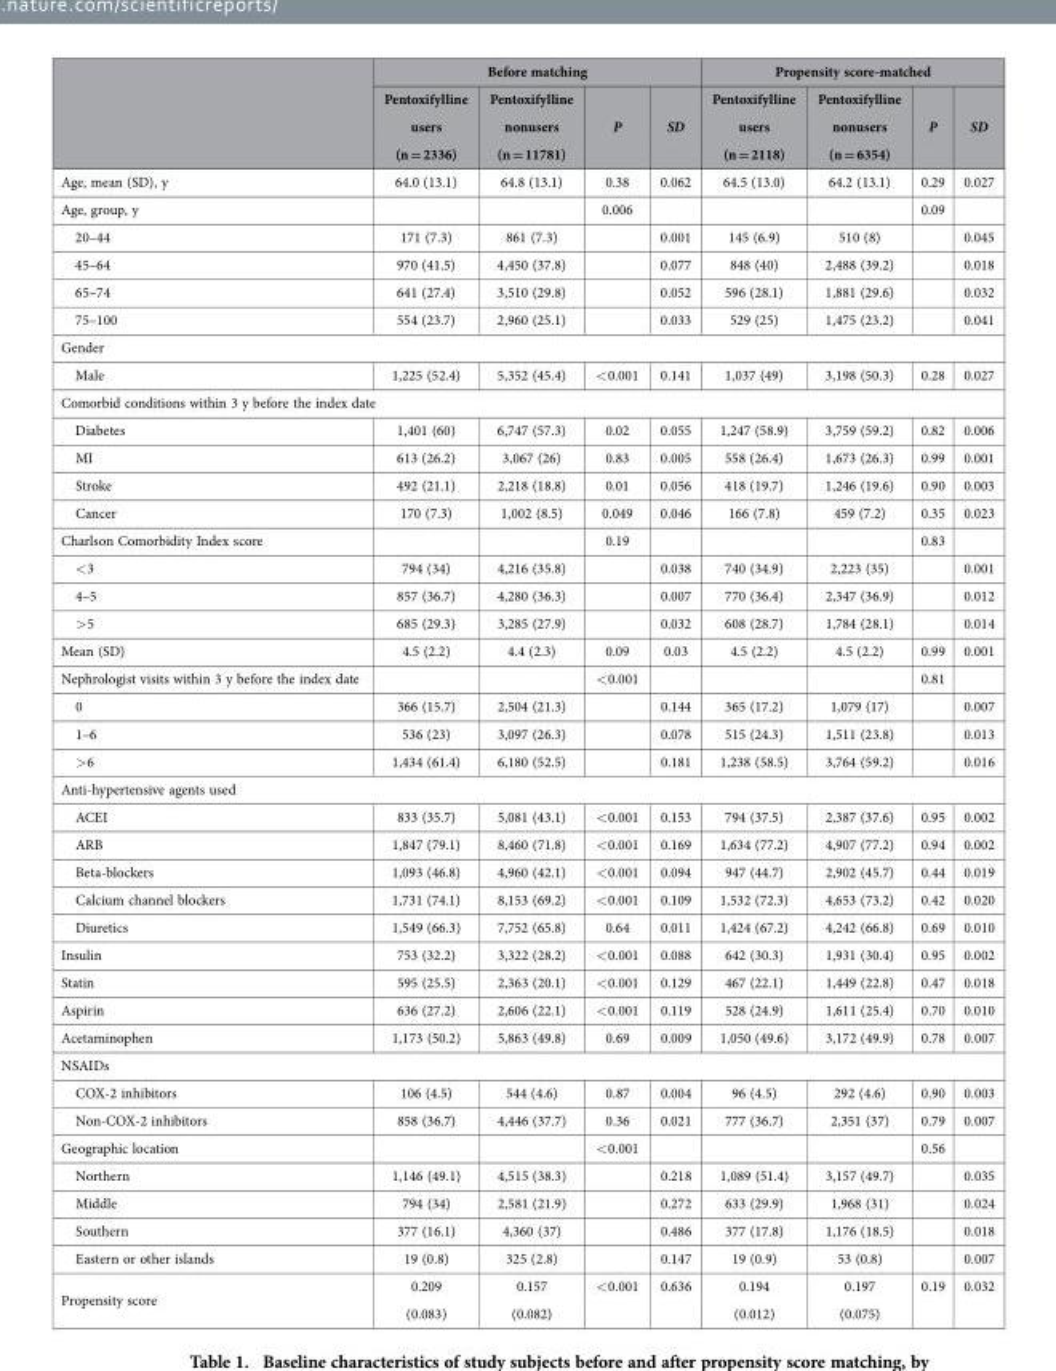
<table><thead><tr><td rowspan="2"></td><td colspan="4">Before matching</td><td colspan="4">Propensity score-matched</td></tr><tr><td>Pentoxifylline users (n = 2336)</td><td>Pentoxifylline nonusers (n = 11781)</td><td>P</td><td>SD</td><td>Pentoxifylline users (n = 2118)</td><td>Pentoxifylline nonusers (n = 6354)</td><td>P</td><td>SD</td></tr></thead><tbody><tr><td>Age, mean (SD), y</td><td>64.0 (13.1)</td><td>64.8 (13.1)</td><td>0.38</td><td>0.062</td><td>64.5 (13.0)</td><td>64.2 (13.1)</td><td>0.29</td><td>0.027</td></tr><tr><td>Age, group, y</td><td></td><td></td><td>0.006</td><td></td><td></td><td></td><td>0.09</td><td></td></tr><tr><td>20–44</td><td>171 (7.3)</td><td>861 (7.3)</td><td></td><td>0.001</td><td>145 (6.9)</td><td>510 (8)</td><td></td><td>0.045</td></tr><tr><td>45–64</td><td>970 (41.5)</td><td>4,450 (37.8)</td><td></td><td>0.077</td><td>848 (40)</td><td>2,488 (39.2)</td><td></td><td>0.018</td></tr><tr><td>65–74</td><td>641 (27.4)</td><td>3,510 (29.8)</td><td></td><td>0.052</td><td>596 (28.1)</td><td>1,881 (29.6)</td><td></td><td>0.032</td></tr><tr><td>75–100</td><td>554 (23.7)</td><td>2,960 (25.1)</td><td></td><td>0.033</td><td>529 (25)</td><td>1,475 (23.2)</td><td></td><td>0.041</td></tr><tr><td colspan="9">Gender</td></tr><tr><td>Male</td><td>1,225 (52.4)</td><td>5,352 (45.4)</td><td>&lt; 0.001</td><td>0.141</td><td>1,037 (49)</td><td>3,198 (50.3)</td><td>0.28</td><td>0.027</td></tr><tr><td colspan="9">Comorbid conditions within 3 y before the index date</td></tr><tr><td>Diabetes</td><td>1,401 (60)</td><td>6,747 (57.3)</td><td>0.02</td><td>0.055</td><td>1,247 (58.9)</td><td>3,759 (59.2)</td><td>0.82</td><td>0.006</td></tr><tr><td>MI</td><td>613 (26.2)</td><td>3,067 (26)</td><td>0.83</td><td>0.005</td><td>558 (26.4)</td><td>1,673 (26.3)</td><td>0.99</td><td>0.001</td></tr><tr><td>Stroke</td><td>492 (21.1)</td><td>2,218 (18.8)</td><td>0.01</td><td>0.056</td><td>418 (19.7)</td><td>1,246 (19.6)</td><td>0.90</td><td>0.003</td></tr><tr><td>Cancer</td><td>170 (7.3)</td><td>1,002 (8.5)</td><td>0.049</td><td>0.046</td><td>166 (7.8)</td><td>459 (7.2)</td><td>0.35</td><td>0.023</td></tr><tr><td>Charlson Comorbidity Index score</td><td></td><td></td><td>0.19</td><td></td><td></td><td></td><td>0.83</td><td></td></tr><tr><td>&lt; 3</td><td>794 (34)</td><td>4,216 (35.8)</td><td></td><td>0.038</td><td>740 (34.9)</td><td>2,223 (35)</td><td></td><td>0.001</td></tr><tr><td>4–5</td><td>857 (36.7)</td><td>4,280 (36.3)</td><td></td><td>0.007</td><td>770 (36.4)</td><td>2,347 (36.9)</td><td></td><td>0.012</td></tr><tr><td>&gt; 5</td><td>685 (29.3)</td><td>3,285 (27.9)</td><td></td><td>0.032</td><td>608 (28.7)</td><td>1,784 (28.1)</td><td></td><td>0.014</td></tr><tr><td>Mean (SD)</td><td>4.5 (2.2)</td><td>4.4 (2.3)</td><td>0.09</td><td>0.03</td><td>4.5 (2.2)</td><td>4.5 (2.2)</td><td>0.99</td><td>0.001</td></tr><tr><td>Nephrologist visits within 3 y before the index date</td><td></td><td></td><td>&lt; 0.001</td><td></td><td></td><td></td><td>0.81</td><td></td></tr><tr><td>0</td><td>366 (15.7)</td><td>2,504 (21.3)</td><td></td><td>0.144</td><td>365 (17.2)</td><td>1,079 (17)</td><td></td><td>0.007</td></tr><tr><td>1–6</td><td>536 (23)</td><td>3,097 (26.3)</td><td></td><td>0.078</td><td>515 (24.3)</td><td>1,511 (23.8)</td><td></td><td>0.013</td></tr><tr><td>&gt; 6</td><td>1,434 (61.4)</td><td>6,180 (52.5)</td><td></td><td>0.181</td><td>1,238 (58.5)</td><td>3,764 (59.2)</td><td></td><td>0.016</td></tr><tr><td colspan="9">Anti-hypertensive agents used</td></tr><tr><td>ACEI</td><td>833 (35.7)</td><td>5,081 (43.1)</td><td>&lt; 0.001</td><td>0.153</td><td>794 (37.5)</td><td>2,387 (37.6)</td><td>0.95</td><td>0.002</td></tr><tr><td>ARB</td><td>1,847 (79.1)</td><td>8,460 (71.8)</td><td>&lt; 0.001</td><td>0.169</td><td>1,634 (77.2)</td><td>4,907 (77.2)</td><td>0.94</td><td>0.002</td></tr><tr><td>Beta-blockers</td><td>1,093 (46.8)</td><td>4,960 (42.1)</td><td>&lt; 0.001</td><td>0.094</td><td>947 (44.7)</td><td>2,902 (45.7)</td><td>0.44</td><td>0.019</td></tr><tr><td>Calcium channel blockers</td><td>1,731 (74.1)</td><td>8,153 (69.2)</td><td>&lt; 0.001</td><td>0.109</td><td>1,532 (72.3)</td><td>4,653 (73.2)</td><td>0.42</td><td>0.020</td></tr><tr><td>Diuretics</td><td>1,549 (66.3)</td><td>7,752 (65.8)</td><td>0.64</td><td>0.011</td><td>1,424 (67.2)</td><td>4,242 (66.8)</td><td>0.69</td><td>0.010</td></tr><tr><td>Insulin</td><td>753 (32.2)</td><td>3,322 (28.2)</td><td>&lt; 0.001</td><td>0.088</td><td>642 (30.3)</td><td>1,931 (30.4)</td><td>0.95</td><td>0.002</td></tr><tr><td>Statin</td><td>595 (25.5)</td><td>2,363 (20.1)</td><td>&lt; 0.001</td><td>0.129</td><td>467 (22.1)</td><td>1,449 (22.8)</td><td>0.47</td><td>0.018</td></tr><tr><td>Aspirin</td><td>636 (27.2)</td><td>2,606 (22.1)</td><td>&lt; 0.001</td><td>0.119</td><td>528 (24.9)</td><td>1,611 (25.4)</td><td>0.70</td><td>0.010</td></tr><tr><td>Acetaminophen</td><td>1,173 (50.2)</td><td>5,863 (49.8)</td><td>0.69</td><td>0.009</td><td>1,050 (49.6)</td><td>3,172 (49.9)</td><td>0.78</td><td>0.007</td></tr><tr><td colspan="9">NSAIDs</td></tr><tr><td>COX-2 inhibitors</td><td>106 (4.5)</td><td>544 (4.6)</td><td>0.87</td><td>0.004</td><td>96 (4.5)</td><td>292 (4.6)</td><td>0.90</td><td>0.003</td></tr><tr><td>Non-COX-2 inhibitors</td><td>858 (36.7)</td><td>4,446 (37.7)</td><td>0.36</td><td>0.021</td><td>777 (36.7)</td><td>2,351 (37)</td><td>0.79</td><td>0.007</td></tr><tr><td>Geographic location</td><td></td><td></td><td>&lt; 0.001</td><td></td><td></td><td></td><td>0.56</td><td></td></tr><tr><td>Northern</td><td>1,146 (49.1)</td><td>4,515 (38.3)</td><td></td><td>0.218</td><td>1,089 (51.4)</td><td>3,157 (49.7)</td><td></td><td>0.035</td></tr><tr><td>Middle</td><td>794 (34)</td><td>2,581 (21.9)</td><td></td><td>0.272</td><td>633 (29.9)</td><td>1,968 (31)</td><td></td><td>0.024</td></tr><tr><td>Southern</td><td>377 (16.1)</td><td>4,360 (37)</td><td></td><td>0.486</td><td>377 (17.8)</td><td>1,176 (18.5)</td><td></td><td>0.018</td></tr><tr><td>Eastern or other islands</td><td>19 (0.8)</td><td>325 (2.8)</td><td></td><td>0.147</td><td>19 (0.9)</td><td>53 (0.8)</td><td></td><td>0.007</td></tr><tr><td>Propensity score</td><td>0.209</td><td>0.157</td><td>&lt; 0.001</td><td>0.636</td><td>0.194</td><td>0.197</td><td>0.19</td><td>0.032</td></tr></tbody></table>